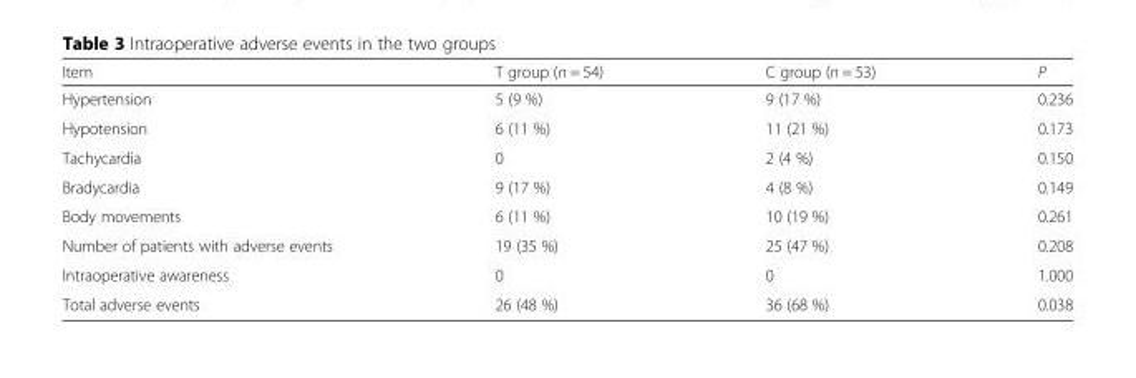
<table><thead><tr><td>Item</td><td>T group (n = 54)</td><td>C group (n = 53)</td><td>P</td></tr></thead><tbody><tr><td>Hypertension</td><td>5 (9 %)</td><td>9 (17 %)</td><td>0.236</td></tr><tr><td>Hypotension</td><td>6 (11 %)</td><td>11 (21 %)</td><td>0.173</td></tr><tr><td>Tachycardia</td><td>0</td><td>2 (4 %)</td><td>0.150</td></tr><tr><td>Bradycardia</td><td>9 (17 %)</td><td>4 (8 %)</td><td>0.149</td></tr><tr><td>Body movements</td><td>6 (11 %)</td><td>10 (19 %)</td><td>0.261</td></tr><tr><td>Number of patients with adverse events</td><td>19 (35 %)</td><td>25 (47 %)</td><td>0.208</td></tr><tr><td>Intraoperative awareness</td><td>0</td><td>0</td><td>1.000</td></tr><tr><td>Total adverse events</td><td>26 (48 %)</td><td>36 (68 %)</td><td>0.038</td></tr></tbody></table>